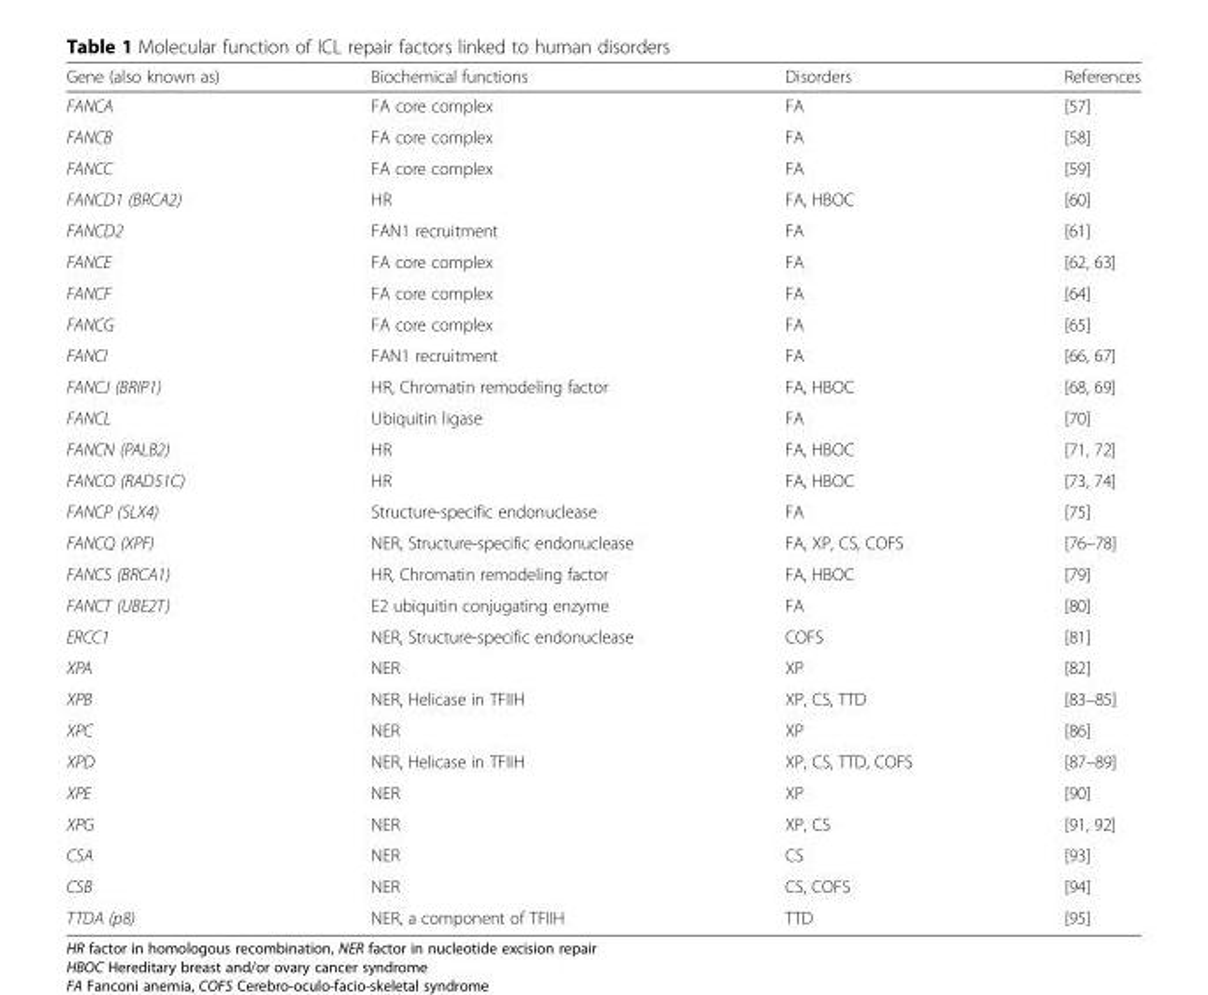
<table><thead><tr><td>Gene (also known as)</td><td>Biochemical functions</td><td>Disorders</td><td>References</td></tr></thead><tbody><tr><td>FANCA</td><td>FA core complex</td><td>FA</td><td>[57]</td></tr><tr><td>FANCB</td><td>FA core complex</td><td>FA</td><td>[58]</td></tr><tr><td>FANCC</td><td>FA core complex</td><td>FA</td><td>[59]</td></tr><tr><td>FANCD1 (BRCA2)</td><td>HR</td><td>FA, HBOC</td><td>[60]</td></tr><tr><td>FANCD2</td><td>FAN1 recruitment</td><td>FA</td><td>[61]</td></tr><tr><td>FANCE</td><td>FA core complex</td><td>FA</td><td>[62, 63]</td></tr><tr><td>FANCF</td><td>FA core complex</td><td>FA</td><td>[64]</td></tr><tr><td>FANCG</td><td>FA core complex</td><td>FA</td><td>[65]</td></tr><tr><td>FANCI</td><td>FAN1 recruitment</td><td>FA</td><td>[66, 67]</td></tr><tr><td>FANCJ (BRIP1)</td><td>HR, Chromatin remodeling factor</td><td>FA, HBOC</td><td>[68, 69]</td></tr><tr><td>FANCL</td><td>Ubiquitin ligase</td><td>FA</td><td>[70]</td></tr><tr><td>FANCN (PALB2)</td><td>HR</td><td>FA, HBOC</td><td>[71, 72]</td></tr><tr><td>FANCO (RAD51C)</td><td>HR</td><td>FA, HBOC</td><td>[73, 74]</td></tr><tr><td>FANCP (SLX4)</td><td>Structure-specific endonuclease</td><td>FA</td><td>[75]</td></tr><tr><td>FANCQ (XPF)</td><td>NER, Structure-specific endonuclease</td><td>FA, XP, CS, COFS</td><td>[76–78]</td></tr><tr><td>FANCS (BRCA1)</td><td>HR, Chromatin remodeling factor</td><td>FA, HBOC</td><td>[79]</td></tr><tr><td>FANCT (UBE2T)</td><td>E2 ubiquitin conjugating enzyme</td><td>FA</td><td>[80]</td></tr><tr><td>ERCC1</td><td>NER, Structure-specific endonuclease</td><td>COFS</td><td>[81]</td></tr><tr><td>XPA</td><td>NER</td><td>XP</td><td>[82]</td></tr><tr><td>XPB</td><td>NER, Helicase in TFIIH</td><td>XP, CS, TTD</td><td>[83–85]</td></tr><tr><td>XPC</td><td>NER</td><td>XP</td><td>[86]</td></tr><tr><td>XPD</td><td>NER, Helicase in TFIIH</td><td>XP, CS, TTD, COFS</td><td>[87–89]</td></tr><tr><td>XPE</td><td>NER</td><td>XP</td><td>[90]</td></tr><tr><td>XPG</td><td>NER</td><td>XP, CS</td><td>[91, 92]</td></tr><tr><td>CSA</td><td>NER</td><td>CS</td><td>[93]</td></tr><tr><td>CSB</td><td>NER</td><td>CS, COFS</td><td>[94]</td></tr><tr><td>TTDA (p8)</td><td>NER, a component of TFIIH</td><td>TTD</td><td>[95]</td></tr></tbody></table>